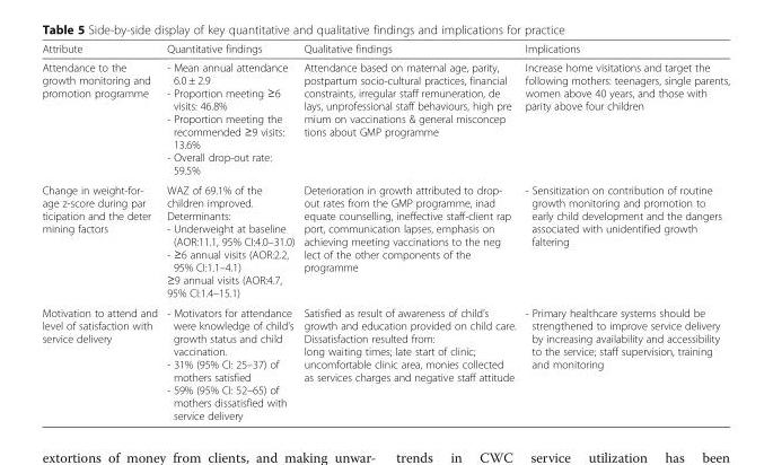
<table><thead><tr><td>Attribute</td><td>Quantitative findings</td><td>Qualitative findings</td><td>Implications</td></tr></thead><tbody><tr><td>Attendance to the growth monitoring and promotion programme</td><td>- Mean annual attendance 6.0 ± 2.9 - Proportion meeting ≥6 visits: 46.8% - Proportion meeting the recommended ≥9 visits: 13.6% - Overall drop-out rate: 59.5%</td><td>Attendance based on maternal age, parity, postpartum socio-cultural practices, financial constraints, irregular staff remuneration, de lays, unprofessional staff behaviours, high pre mium on vaccinations &amp; general misconcep tions about GMP programme</td><td>Increase home visitations and target the following mothers: teenagers, single parents, women above 40 years, and those with parity above four children</td></tr><tr><td>Change in weight-for- age z-score during par ticipation and the deter mining factors</td><td>WAZ of 69.1% of the children improved. Determinants: - Underweight at baseline (AOR:11.1, 95% CI:4.0–31.0) - ≥6 annual visits (AOR:2.2, 95% CI:1.1–4.1) ≥9 annual visits (AOR:4.7, 95% CI:1.4–15.1)</td><td>Deterioration in growth attributed to drop- out rates from the GMP programme, inad equate counselling, ineffective staff-client rap port, communication lapses, emphasis on achieving meeting vaccinations to the neg lect of the other components of the programme</td><td>- Sensitization on contribution of routine growth monitoring and promotion to early child development and the dangers associated with unidentified growth faltering</td></tr><tr><td>Motivation to attend and level of satisfaction with service delivery</td><td>- Motivators for attendance were knowledge of child’s growth status and child vaccination. - 31% (95% CI: 25–37) of mothers satisfied - 59% (95% CI: 52–65) of mothers dissatisfied with service delivery</td><td>Satisfied as result of awareness of child’s growth and education provided on child care. Dissatisfaction resulted from: long waiting times; late start of clinic; uncomfortable clinic area, monies collected as services charges and negative staff attitude</td><td>- Primary healthcare systems should be strengthened to improve service delivery by increasing availability and accessibility to the service; staff supervision, training and monitoring</td></tr></tbody></table>